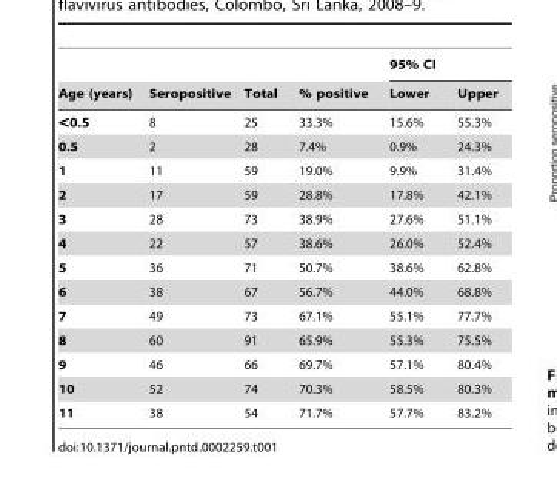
<table><thead><tr><td rowspan="2">Age (years)</td><td rowspan="2">Seropositive</td><td rowspan="2">Total</td><td rowspan="2">% positive</td><td colspan="2">95% CI</td></tr><tr><td>Lower</td><td>Upper</td></tr></thead><tbody><tr><td>&lt;0.5</td><td>8</td><td>25</td><td>33.3%</td><td>15.6%</td><td>55.3%</td></tr><tr><td>0.5</td><td>2</td><td>28</td><td>7.4%</td><td>0.9%</td><td>24.3%</td></tr><tr><td>1</td><td>11</td><td>59</td><td>19.0%</td><td>9.9%</td><td>31.4%</td></tr><tr><td>2</td><td>17</td><td>59</td><td>28.8%</td><td>17.8%</td><td>42.1%</td></tr><tr><td>3</td><td>28</td><td>73</td><td>38.9%</td><td>27.6%</td><td>51.1%</td></tr><tr><td>4</td><td>22</td><td>57</td><td>38.6%</td><td>26.0%</td><td>52.4%</td></tr><tr><td>5</td><td>36</td><td>71</td><td>50.7%</td><td>38.6%</td><td>62.8%</td></tr><tr><td>6</td><td>38</td><td>67</td><td>56.7%</td><td>44.0%</td><td>68.8%</td></tr><tr><td>7</td><td>49</td><td>73</td><td>67.1%</td><td>55.1%</td><td>77.7%</td></tr><tr><td>8</td><td>60</td><td>91</td><td>65.9%</td><td>55.3%</td><td>75.5%</td></tr><tr><td>9</td><td>46</td><td>66</td><td>69.7%</td><td>57.1%</td><td>80.4%</td></tr><tr><td>10</td><td>52</td><td>74</td><td>70.3%</td><td>58.5%</td><td>80.3%</td></tr><tr><td>11</td><td>38</td><td>54</td><td>71.7%</td><td>57.7%</td><td>83.2%</td></tr></tbody></table>